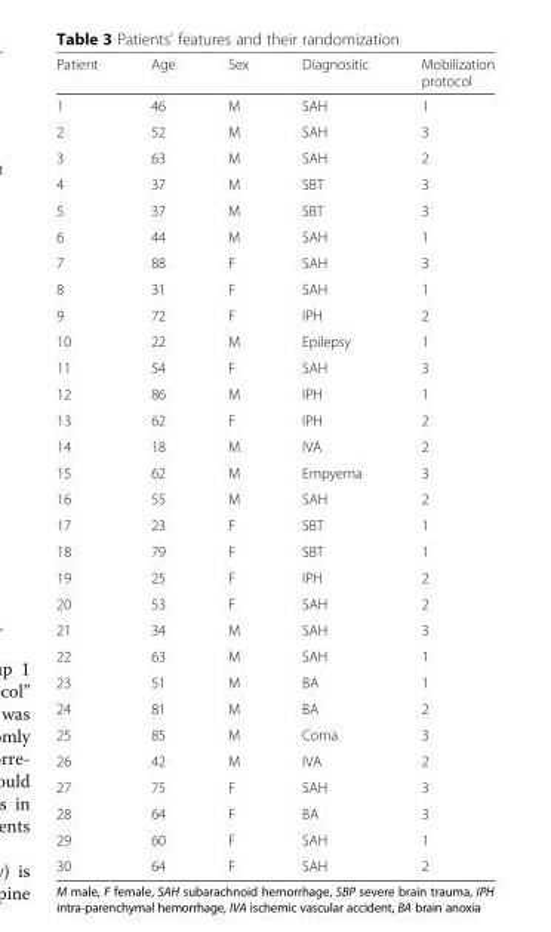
<table><thead><tr><td>Patient</td><td>Age</td><td>Sex</td><td>Diagnositic</td><td>Mobilization protocol</td></tr></thead><tbody><tr><td>1</td><td>46</td><td>M</td><td>SAH</td><td>1</td></tr><tr><td>2</td><td>52</td><td>M</td><td>SAH</td><td>3</td></tr><tr><td>3</td><td>63</td><td>M</td><td>SAH</td><td>2</td></tr><tr><td>4</td><td>37</td><td>M</td><td>SBT</td><td>3</td></tr><tr><td>5</td><td>37</td><td>M</td><td>SBT</td><td>3</td></tr><tr><td>6</td><td>44</td><td>M</td><td>SAH</td><td>1</td></tr><tr><td>7</td><td>88</td><td>F</td><td>SAH</td><td>3</td></tr><tr><td>8</td><td>31</td><td>F</td><td>SAH</td><td>1</td></tr><tr><td>9</td><td>72</td><td>F</td><td>IPH</td><td>2</td></tr><tr><td>10</td><td>22</td><td>M</td><td>Epilepsy</td><td>1</td></tr><tr><td>11</td><td>54</td><td>F</td><td>SAH</td><td>3</td></tr><tr><td>12</td><td>86</td><td>M</td><td>IPH</td><td>1</td></tr><tr><td>13</td><td>62</td><td>F</td><td>IPH</td><td>2</td></tr><tr><td>14</td><td>18</td><td>M</td><td>IVA</td><td>2</td></tr><tr><td>15</td><td>62</td><td>M</td><td>Empyema</td><td>3</td></tr><tr><td>16</td><td>55</td><td>M</td><td>SAH</td><td>2</td></tr><tr><td>17</td><td>23</td><td>F</td><td>SBT</td><td>1</td></tr><tr><td>18</td><td>79</td><td>F</td><td>SBT</td><td>1</td></tr><tr><td>19</td><td>25</td><td>F</td><td>IPH</td><td>2</td></tr><tr><td>20</td><td>53</td><td>F</td><td>SAH</td><td>2</td></tr><tr><td>21</td><td>34</td><td>M</td><td>SAH</td><td>3</td></tr><tr><td>22</td><td>63</td><td>M</td><td>SAH</td><td>1</td></tr><tr><td>23</td><td>51</td><td>M</td><td>BA</td><td>1</td></tr><tr><td>24</td><td>81</td><td>M</td><td>BA</td><td>2</td></tr><tr><td>25</td><td>85</td><td>M</td><td>Coma</td><td>3</td></tr><tr><td>26</td><td>42</td><td>M</td><td>IVA</td><td>2</td></tr><tr><td>27</td><td>75</td><td>F</td><td>SAH</td><td>3</td></tr><tr><td>28</td><td>64</td><td>F</td><td>BA</td><td>3</td></tr><tr><td>29</td><td>60</td><td>F</td><td>SAH</td><td>1</td></tr><tr><td>30</td><td>64</td><td>F</td><td>SAH</td><td>2</td></tr></tbody></table>